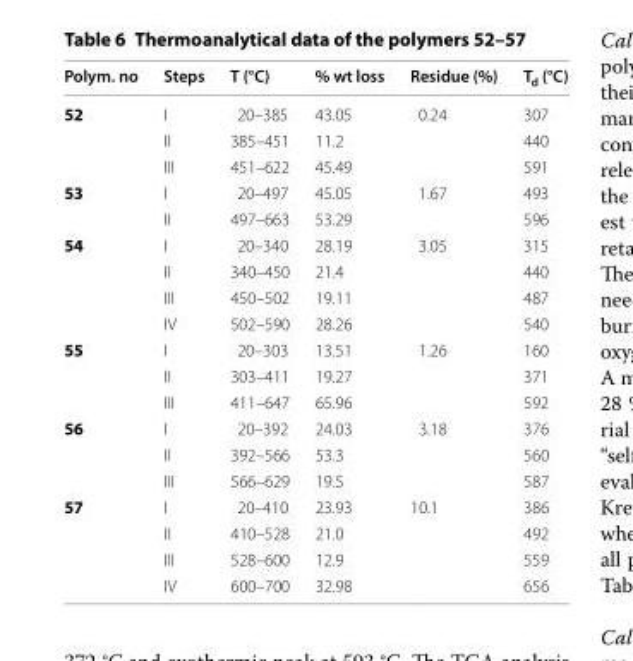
<table><thead><tr><td>Polym. no</td><td>Steps</td><td>T (°C)</td><td>% wt loss</td><td>Residue (%)</td><td>T<sub>d</sub> (°C)</td></tr></thead><tbody><tr><td rowspan="3">52</td><td>I</td><td>20–385</td><td>43.05</td><td>0.24</td><td>307</td></tr><tr><td>II</td><td>385–451</td><td>11.2</td><td></td><td>440</td></tr><tr><td>III</td><td>451–622</td><td>45.49</td><td></td><td>591</td></tr><tr><td rowspan="2">53</td><td>I</td><td>20–497</td><td>45.05</td><td>1.67</td><td>493</td></tr><tr><td>II</td><td>497–663</td><td>53.29</td><td></td><td>596</td></tr><tr><td rowspan="4">54</td><td>I</td><td>20–340</td><td>28.19</td><td>3.05</td><td>315</td></tr><tr><td>II</td><td>340–450</td><td>21.4</td><td></td><td>440</td></tr><tr><td>III</td><td>450–502</td><td>19.11</td><td></td><td>487</td></tr><tr><td>IV</td><td>502–590</td><td>28.26</td><td></td><td>540</td></tr><tr><td rowspan="3">55</td><td>I</td><td>20–303</td><td>13.51</td><td>1.26</td><td>160</td></tr><tr><td>II</td><td>303–411</td><td>19.27</td><td></td><td>371</td></tr><tr><td>III</td><td>411–647</td><td>65.96</td><td></td><td>592</td></tr><tr><td rowspan="3">56</td><td>I</td><td>20–392</td><td>24.03</td><td>3.18</td><td>376</td></tr><tr><td>II</td><td>392–566</td><td>53.3</td><td></td><td>560</td></tr><tr><td>III</td><td>566–629</td><td>19.5</td><td></td><td>587</td></tr><tr><td rowspan="4">57</td><td>I</td><td>20–410</td><td>23.93</td><td>10.1</td><td>386</td></tr><tr><td>II</td><td>410–528</td><td>21.0</td><td></td><td>492</td></tr><tr><td>III</td><td>528–600</td><td>12.9</td><td></td><td>559</td></tr><tr><td>IV</td><td>600–700</td><td>32.98</td><td></td><td>656</td></tr></tbody></table>